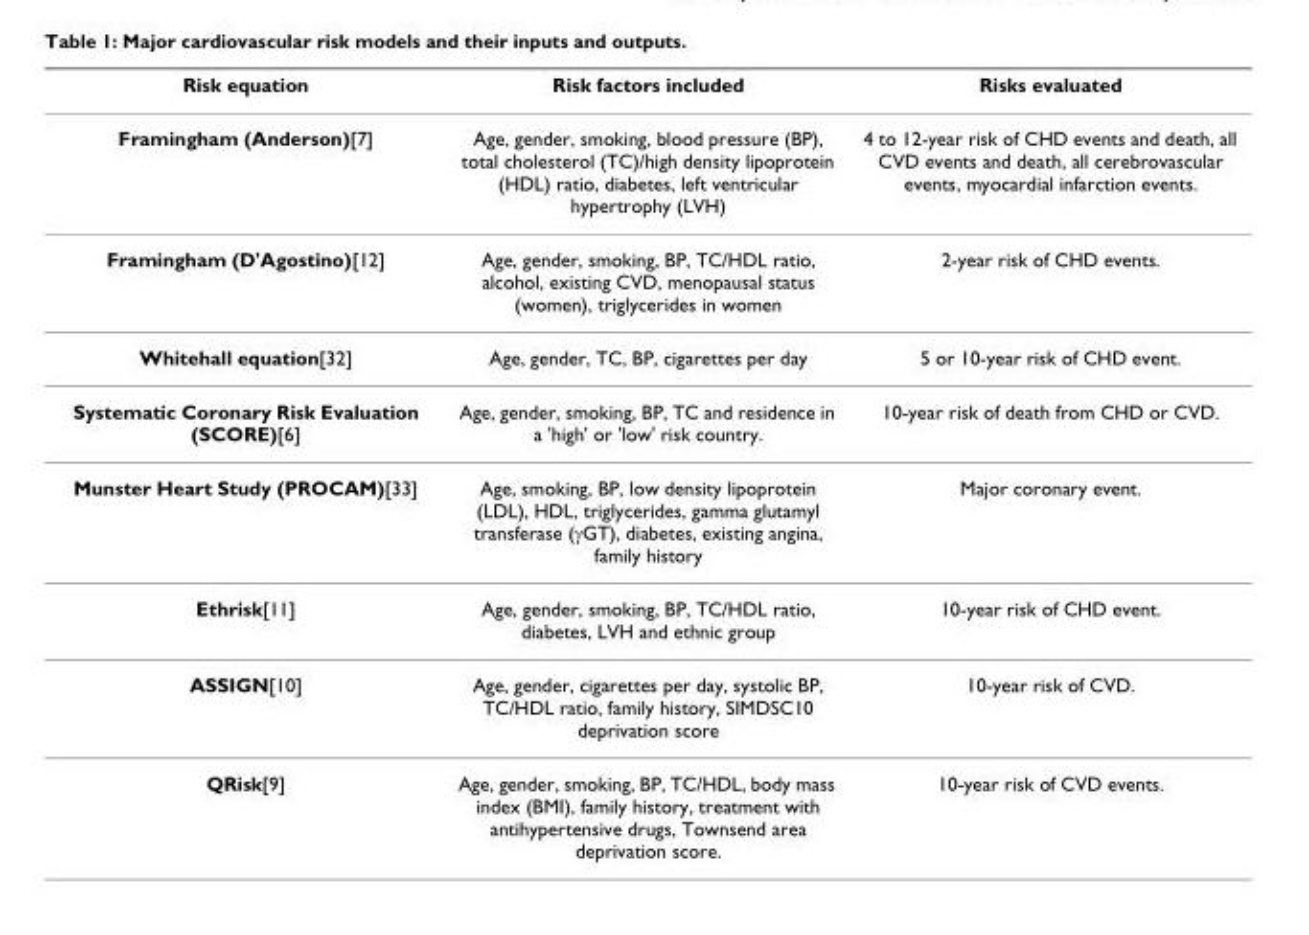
<table><thead><tr><td>Risk equation</td><td>Risk factors included</td><td>Risks evaluated</td></tr></thead><tbody><tr><td>Framingham (Anderson)[7]</td><td>Age, gender, smoking, blood pressure (BP), total cholesterol (TC)/high density lipoprotein (HDL) ratio, diabetes, left ventricular hypertrophy (LVH)</td><td>4 to 12-year risk of CHD events and death, all CVD events and death, all cerebrovascular events, myocardial infarction events.</td></tr><tr><td>Framingham (D&#x27;Agostino)[12]</td><td>Age, gender, smoking, BP, TC/HDL ratio, alcohol, existing CVD, menopausal status (women), triglycerides in women</td><td>2-year risk of CHD events.</td></tr><tr><td>Whitehall equation[32]</td><td>Age, gender, TC, BP, cigarettes per day</td><td>5 or 10-year risk of CHD event.</td></tr><tr><td>Systematic Coronary Risk Evaluation (SCORE)[6]</td><td>Age, gender, smoking, BP, TC and residence in a &#x27;high&#x27; or &#x27;low&#x27; risk country.</td><td>10-year risk of death from CHD or CVD.</td></tr><tr><td>Munster Heart Study (PROCAM)[33]</td><td>Age, smoking, BP, low density lipoprotein (LDL), HDL, triglycerides, gamma glutamyl transferase (γGT), diabetes, existing angina, family history</td><td>Major coronary event.</td></tr><tr><td>Ethrisk[11]</td><td>Age, gender, smoking, BP, TC/HDL ratio, diabetes, LVH and ethnic group</td><td>10-year risk of CHD event.</td></tr><tr><td>ASSIGN[10]</td><td>Age, gender, cigarettes per day, systolic BP, TC/HDL ratio, family history, SIMDSC10 deprivation score</td><td>10-year risk of CVD.</td></tr><tr><td>QRisk[9]</td><td>Age, gender, smoking, BP, TC/HDL, body mass index (BMI), family history, treatment with antihypertensive drugs, Townsend area deprivation score.</td><td>10-year risk of CVD events.</td></tr></tbody></table>